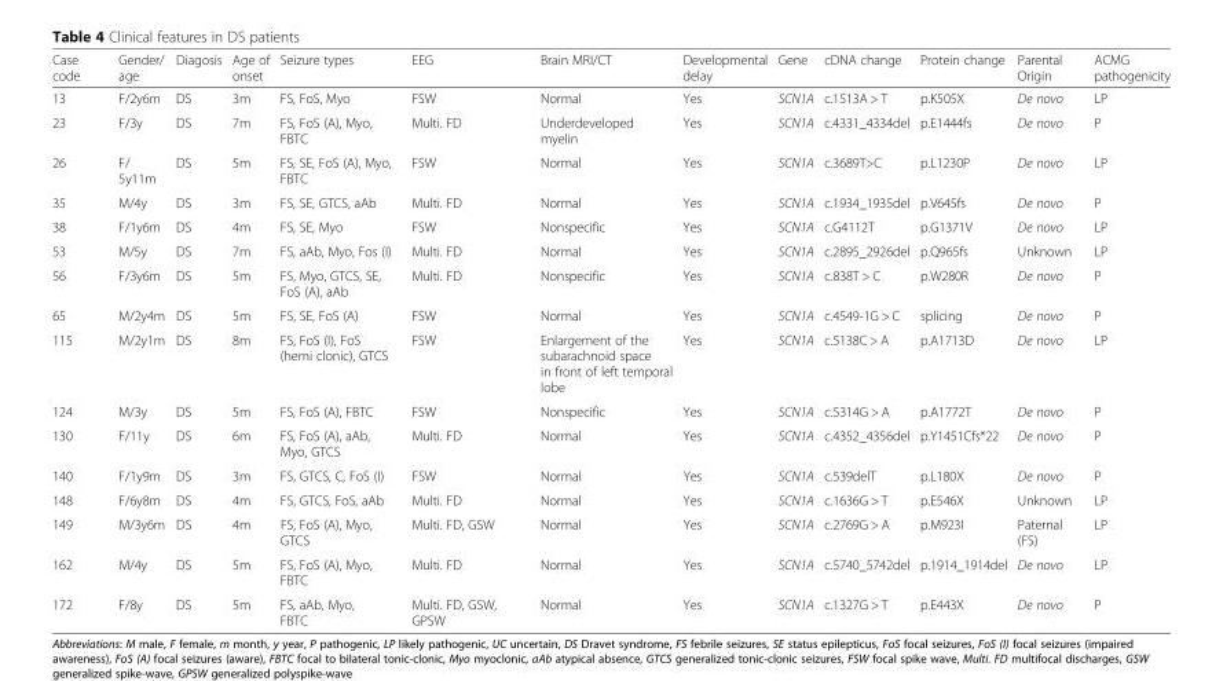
<table><thead><tr><td>Case code</td><td>Gender/ age</td><td>Diagosis</td><td>Age of onset</td><td>Seizure types</td><td>EEG</td><td>Brain MRI/CT</td><td>Developmental delay</td><td>Gene</td><td>cDNA change</td><td>Protein change</td><td>Parental Origin</td><td>ACMG pathogenicity</td></tr></thead><tbody><tr><td>13</td><td>F/2y6m</td><td>DS</td><td>3m</td><td>FS, FoS, Myo</td><td>FSW</td><td>Normal</td><td>Yes</td><td>SCN1A</td><td>c.1513A &gt; T</td><td>p.K505X</td><td>De novo</td><td>LP</td></tr><tr><td>23</td><td>F/3y</td><td>DS</td><td>7m</td><td>FS, FoS (A), Myo, FBTC</td><td>Multi. FD</td><td>Underdeveloped myelin</td><td>Yes</td><td>SCN1A</td><td>c.4331_4334del</td><td>p.E1444fs</td><td>De novo</td><td>P</td></tr><tr><td>26</td><td>F/ 5y11m</td><td>DS</td><td>5m</td><td>FS, SE, FoS (A), Myo, FBTC</td><td>FSW</td><td>Normal</td><td>Yes</td><td>SCN1A</td><td>c.3689T&gt;C</td><td>p.L1230P</td><td>De novo</td><td>LP</td></tr><tr><td>35</td><td>M/4y</td><td>DS</td><td>3m</td><td>FS, SE, GTCS, aAb</td><td>Multi. FD</td><td>Normal</td><td>Yes</td><td>SCN1A</td><td>c.1934_1935del</td><td>p.V645fs</td><td>De novo</td><td>P</td></tr><tr><td>38</td><td>F/1y6m</td><td>DS</td><td>4m</td><td>FS, SE, Myo</td><td>FSW</td><td>Nonspecific</td><td>Yes</td><td>SCN1A</td><td>c.G4112T</td><td>p.G1371V</td><td>De novo</td><td>LP</td></tr><tr><td>53</td><td>M/5y</td><td>DS</td><td>7m</td><td>FS, aAb, Myo, Fos (I)</td><td>Multi. FD</td><td>Normal</td><td>Yes</td><td>SCN1A</td><td>c.2895_2926del</td><td>p.Q965fs</td><td>Unknown</td><td>LP</td></tr><tr><td>56</td><td>F/3y6m</td><td>DS</td><td>5m</td><td>FS, Myo, GTCS, SE, FoS (A), aAb</td><td>Multi. FD</td><td>Nonspecific</td><td>Yes</td><td>SCN1A</td><td>c.838T &gt; C</td><td>p.W280R</td><td>De novo</td><td>P</td></tr><tr><td>65</td><td>M/2y4m</td><td>DS</td><td>5m</td><td>FS, SE, FoS (A)</td><td>FSW</td><td>Normal</td><td>Yes</td><td>SCN1A</td><td>c.4549-1G &gt; C</td><td>splicing</td><td>De novo</td><td>P</td></tr><tr><td>115</td><td>M/2y1m</td><td>DS</td><td>8m</td><td>FS, FoS (I), FoS (hemi clonic), GTCS</td><td>FSW</td><td>Enlargement of the subarachnoid space in front of left temporal lobe</td><td>Yes</td><td>SCN1A</td><td>c.5138C &gt; A</td><td>p.A1713D</td><td>De novo</td><td>LP</td></tr><tr><td>124</td><td>M/3y</td><td>DS</td><td>5m</td><td>FS, FoS (A), FBTC</td><td>FSW</td><td>Nonspecific</td><td>Yes</td><td>SCN1A</td><td>c.5314G &gt; A</td><td>p.A1772T</td><td>De novo</td><td>P</td></tr><tr><td>130</td><td>F/11y</td><td>DS</td><td>6m</td><td>FS, FoS (A), aAb, Myo, GTCS</td><td>Multi. FD</td><td>Normal</td><td>Yes</td><td>SCN1A</td><td>c.4352_4356del</td><td>p.Y1451Cfs*22</td><td>De novo</td><td>P</td></tr><tr><td>140</td><td>F/1y9m</td><td>DS</td><td>3m</td><td>FS, GTCS, C, FoS (I)</td><td>FSW</td><td>Normal</td><td>Yes</td><td>SCN1A</td><td>c.539delT</td><td>p.L180X</td><td>De novo</td><td>P</td></tr><tr><td>148</td><td>F/6y8m</td><td>DS</td><td>4m</td><td>FS, GTCS, FoS, aAb</td><td>Multi. FD</td><td>Normal</td><td>Yes</td><td>SCN1A</td><td>c.1636G &gt; T</td><td>p.E546X</td><td>Unknown</td><td>LP</td></tr><tr><td>149</td><td>M/3y6m</td><td>DS</td><td>4m</td><td>FS, FoS (A), Myo, GTCS</td><td>Multi. FD, GSW</td><td>Normal</td><td>Yes</td><td>SCN1A</td><td>c.2769G &gt; A</td><td>p.M923I</td><td>Paternal (FS)</td><td>LP</td></tr><tr><td>162</td><td>M/4y</td><td>DS</td><td>5m</td><td>FS, FoS (A), Myo, FBTC</td><td>Multi. FD</td><td>Normal</td><td>Yes</td><td>SCN1A</td><td>c.5740_5742del</td><td>p.1914_1914del</td><td>De novo</td><td>LP</td></tr><tr><td>172</td><td>F/8y</td><td>DS</td><td>5m</td><td>FS, aAb, Myo, FBTC</td><td>Multi. FD, GSW, GPSW</td><td>Normal</td><td>Yes</td><td>SCN1A</td><td>c.1327G &gt; T</td><td>p.E443X</td><td>De novo</td><td>P</td></tr></tbody></table>